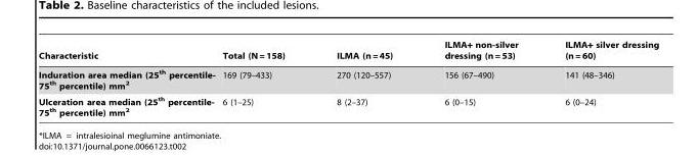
<table><thead><tr><td>Characteristic</td><td>Total (N = 158)</td><td>ILMA (n = 45)</td><td>ILMA+ non-silver dressing (n = 53)</td><td>ILMA+ silver dressing (n = 60)</td></tr></thead><tbody><tr><td>Induration area median (25<sup>th</sup> percentile- 75<sup>th</sup> percentile) mm<sup>2</sup></td><td>169 (79–433)</td><td>270 (120–557)</td><td>156 (67–490)</td><td>141 (48–346)</td></tr><tr><td>Ulceration area median (25<sup>th</sup> percentile- 75<sup>th</sup> percentile) mm<sup>2</sup></td><td>6 (1–25)</td><td>8 (2–37)</td><td>6 (0–15)</td><td>6 (0–24)</td></tr></tbody></table>